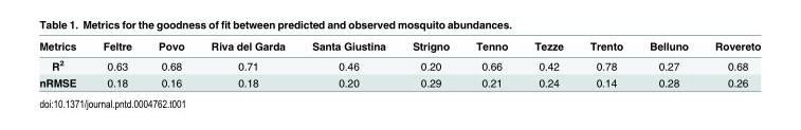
<table><thead><tr><td>Metrics</td><td>Feltre</td><td>Povo</td><td>Riva del Garda</td><td>Santa Giustina</td><td>Strigno</td><td>Tenno</td><td>Tezze</td><td>Trento</td><td>Belluno</td><td>Rovereto</td></tr></thead><tbody><tr><td>R<sup>2</sup></td><td>0.63</td><td>0.68</td><td>0.71</td><td>0.46</td><td>0.20</td><td>0.66</td><td>0.42</td><td>0.78</td><td>0.27</td><td>0.68</td></tr><tr><td>nRMSE</td><td>0.18</td><td>0.16</td><td>0.18</td><td>0.20</td><td>0.29</td><td>0.21</td><td>0.24</td><td>0.14</td><td>0.28</td><td>0.26</td></tr></tbody></table>